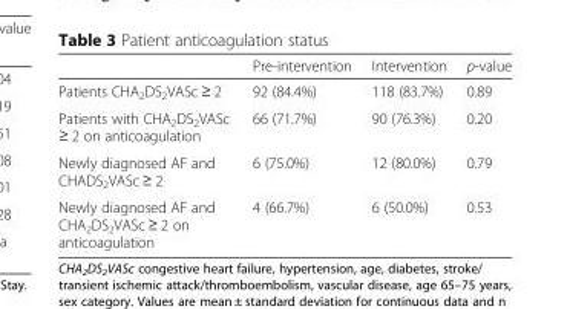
<table><thead><tr><td></td><td>Pre-intervention</td><td>Intervention</td><td>p-value</td></tr></thead><tbody><tr><td>Patients CHA<sub>2</sub>DS<sub>2</sub>VASc ≥ 2</td><td>92 (84.4%)</td><td>118 (83.7%)</td><td>0.89</td></tr><tr><td>Patients with CHA<sub>2</sub>DS<sub>2</sub>VASc ≥ 2 on anticoagulation</td><td>66 (71.7%)</td><td>90 (76.3%)</td><td>0.20</td></tr><tr><td>Newly diagnosed AF and CHADS<sub>2</sub>VASc ≥ 2</td><td>6 (75.0%)</td><td>12 (80.0%)</td><td>0.79</td></tr><tr><td>Newly diagnosed AF and CHA<sub>2</sub>DS<sub>2</sub>VASc ≥ 2 on anticoagulation</td><td>4 (66.7%)</td><td>6 (50.0%)</td><td>0.53</td></tr></tbody></table>